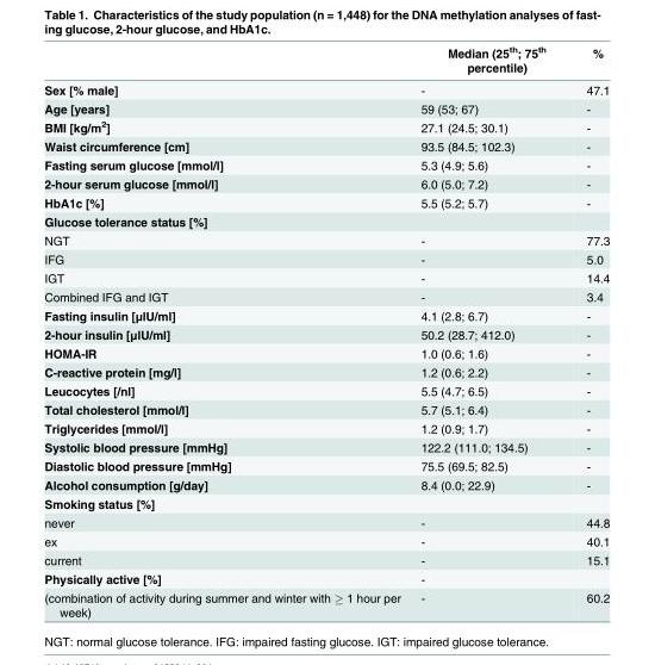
<table><thead><tr><td></td><td>Median (25<sup>th</sup>; 75<sup>th</sup> percentile)</td><td>%</td></tr></thead><tbody><tr><td>Sex [% male]</td><td>-</td><td>47.1</td></tr><tr><td>Age [years]</td><td>59 (53; 67)</td><td>-</td></tr><tr><td>BMI [kg/m<sup>2</sup>]</td><td>27.1 (24.5; 30.1)</td><td>-</td></tr><tr><td>Waist circumference [cm]</td><td>93.5 (84.5; 102.3)</td><td>-</td></tr><tr><td>Fasting serum glucose [mmol/l]</td><td>5.3 (4.9; 5.6)</td><td>-</td></tr><tr><td>2-hour serum glucose [mmol/l]</td><td>6.0 (5.0; 7.2)</td><td>-</td></tr><tr><td>HbA1c [%]</td><td>5.5 (5.2; 5.7)</td><td>-</td></tr><tr><td colspan="3">Glucose tolerance status [%]</td></tr><tr><td>NGT</td><td>-</td><td>77.3</td></tr><tr><td>IFG</td><td>-</td><td>5.0</td></tr><tr><td>IGT</td><td>-</td><td>14.4</td></tr><tr><td>Combined IFG and IGT</td><td>-</td><td>3.4</td></tr><tr><td>Fasting insulin [μlU/ml]</td><td>4.1 (2.8; 6.7)</td><td>-</td></tr><tr><td>2-hour insulin [μlU/ml]</td><td>50.2 (28.7; 412.0)</td><td>-</td></tr><tr><td>HOMA-IR</td><td>1.0 (0.6; 1.6)</td><td>-</td></tr><tr><td>C-reactive protein [mg/l]</td><td>1.2 (0.6; 2.2)</td><td>-</td></tr><tr><td>Leucocytes [/nl]</td><td>5.5 (4.7; 6.5)</td><td>-</td></tr><tr><td>Total cholesterol [mmol/l]</td><td>5.7 (5.1; 6.4)</td><td>-</td></tr><tr><td>Triglycerides [mmol/l]</td><td>1.2 (0.9; 1.7)</td><td>-</td></tr><tr><td>Systolic blood pressure [mmHg]</td><td>122.2 (111.0; 134.5)</td><td>-</td></tr><tr><td>Diastolic blood pressure [mmHg]</td><td>75.5 (69.5; 82.5)</td><td>-</td></tr><tr><td>Alcohol consumption [g/day]</td><td>8.4 (0.0; 22.9)</td><td>-</td></tr><tr><td colspan="3">Smoking status [%]</td></tr><tr><td>never</td><td>-</td><td>44.8</td></tr><tr><td>ex</td><td>-</td><td>40.1</td></tr><tr><td>current</td><td>-</td><td>15.1</td></tr><tr><td>Physically active [%]</td><td>-</td><td></td></tr><tr><td>(combination of activity during summer and winter with ≥ 1 hour per week)</td><td>-</td><td>60.2</td></tr></tbody></table>